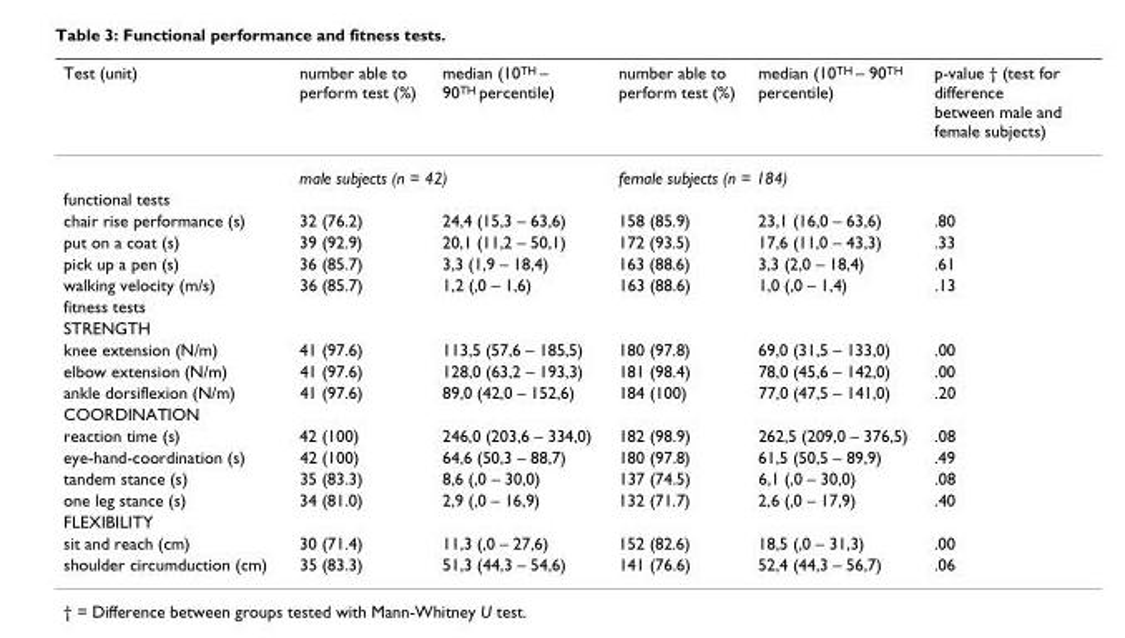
<table><thead><tr><td>Test (unit)</td><td>number able to perform test (%)</td><td>median (10<sup>TH</sup> – 90<sup>TH</sup> percentile)</td><td>number able to perform test (%)</td><td>median (10<sup>TH</sup> – 90<sup>TH</sup> percentile)</td><td>p-value † (test for difference between male and female subjects)</td></tr></thead><tbody><tr><td></td><td colspan="2">male subjects (n = 42)</td><td colspan="2">female subjects (n = 184)</td><td></td></tr><tr><td colspan="6">functional tests</td></tr><tr><td>chair rise performance (s)</td><td>32 (76.2)</td><td>24,4 (15,3 – 63,6)</td><td>158 (85.9)</td><td>23,1 (16,0 – 63,6)</td><td>.80</td></tr><tr><td>put on a coat (s)</td><td>39 (92.9)</td><td>20,1 (11,2 – 50,1)</td><td>172 (93.5)</td><td>17,6 (11,0 – 43,3)</td><td>.33</td></tr><tr><td>pick up a pen (s)</td><td>36 (85.7)</td><td>3,3 (1,9 – 18,4)</td><td>163 (88.6)</td><td>3,3 (2,0 – 18,4)</td><td>.61</td></tr><tr><td>walking velocity (m/s)</td><td>36 (85.7)</td><td>1,2 (,0 – 1,6)</td><td>163 (88.6)</td><td>1,0 (,0 – 1,4)</td><td>.13</td></tr><tr><td colspan="6">fitness tests</td></tr><tr><td colspan="6">STRENGTH</td></tr><tr><td>knee extension (N/m)</td><td>41 (97.6)</td><td>113,5 (57,6 – 185,5)</td><td>180 (97.8)</td><td>69,0 (31,5 – 133,0)</td><td>.00</td></tr><tr><td>elbow extension (N/m)</td><td>41 (97.6)</td><td>128,0 (63,2 – 193,3)</td><td>181 (98.4)</td><td>78,0 (45,6 – 142,0)</td><td>.00</td></tr><tr><td>ankle dorsiflexion (N/m)</td><td>41 (97.6)</td><td>89,0 (42,0 – 152,6)</td><td>184 (100)</td><td>77,0 (47,5 – 141,0)</td><td>.20</td></tr><tr><td colspan="6">COORDINATION</td></tr><tr><td>reaction time (s)</td><td>42 (100)</td><td>246,0 (203,6 – 334,0)</td><td>182 (98.9)</td><td>262,5 (209,0 – 376,5)</td><td>.08</td></tr><tr><td>eye-hand-coordination (s)</td><td>42 (100)</td><td>64,6 (50,3 – 88,7)</td><td>180 (97.8)</td><td>61,5 (50,5 – 89,9)</td><td>.49</td></tr><tr><td>tandem stance (s)</td><td>35 (83.3)</td><td>8,6 (,0 – 30,0)</td><td>137 (74.5)</td><td>6,1 (,0 – 30,0)</td><td>.08</td></tr><tr><td>one leg stance (s)</td><td>34 (81.0)</td><td>2,9 (,0 – 16,9)</td><td>132 (71.7)</td><td>2,6 (,0 – 17,9)</td><td>.40</td></tr><tr><td colspan="6">FLEXIBILITY</td></tr><tr><td>sit and reach (cm)</td><td>30 (71.4)</td><td>11,3 (,0 – 27,6)</td><td>152 (82.6)</td><td>18,5 (,0 – 31,3)</td><td>.00</td></tr><tr><td>shoulder circumduction (cm)</td><td>35 (83.3)</td><td>51,3 (44,3 – 54,6)</td><td>141 (76.6)</td><td>52,4 (44,3 – 56,7)</td><td>.06</td></tr></tbody></table>